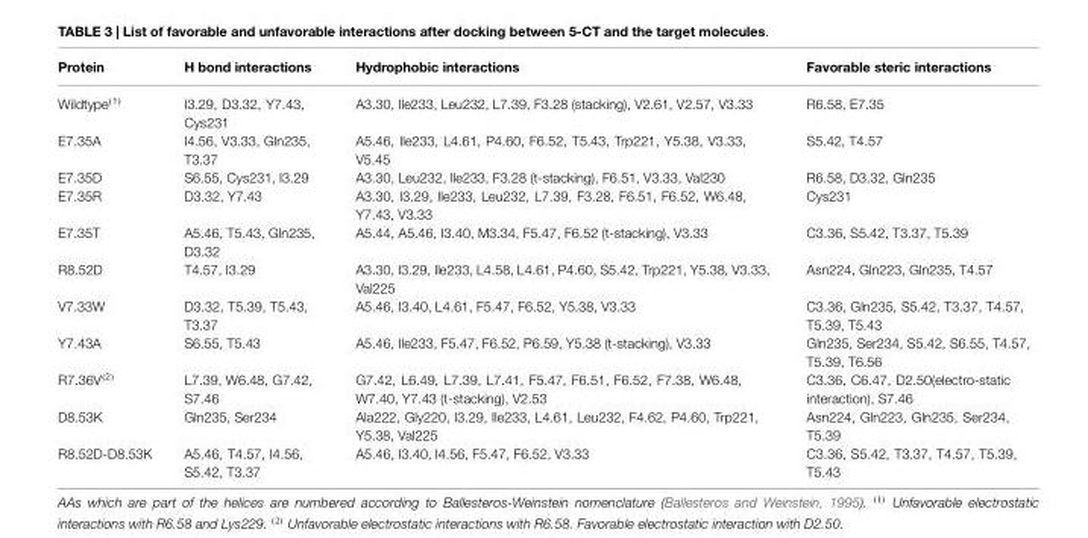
<table><thead><tr><td>Protein</td><td>H bond interactions</td><td>Hydrophobic interactions</td><td>Favorable steric interactions</td></tr></thead><tbody><tr><td>Wildtype<sup>(1)</sup></td><td>I3.29, D3.32, Y7.43, Cys231</td><td>A3.30, Ile233, Leu232, L7.39, F3.28 (stacking), V2.61, V2.57, V3.33</td><td>R6.58, E7.35</td></tr><tr><td>E7.35A</td><td>I4.56, V3.33, Gln235, T3.37</td><td>A5.46, Ile233, L4.61, P4.60, F6.52, T5.43, Trp221, Y5.38, V3.33, V5.45</td><td>S5.42, T4.57</td></tr><tr><td>E7.35D</td><td>S6.55, Cys231, I3.29</td><td>A3.30, Leu232, Ile233, F3.28 (t-stacking), F6.51, V3.33, Val230</td><td>R6.58, D3.32, Gln235</td></tr><tr><td>E7.35R</td><td>D3.32, Y7.43</td><td>A3.30, I3.29, Ile233, Leu232, L7.39, F3.28, F6.51, F6.52, W6.48, Y7.43, V3.33</td><td>Cys231</td></tr><tr><td>E7.35T</td><td>A5.46, T5.43, Gln235, D3.32</td><td>A5.44, A5.46, I3.40, M3.34, F5.47, F6.52 (t-stacking), V3.33</td><td>C3.36, S5.42, T3.37, T5.39</td></tr><tr><td>R8.52D</td><td>T4.57, I3.29</td><td>A3.30, I3.29, Ile233, L4.58, L4.61, P4.60, S5.42, Trp221, Y5.38, V3.33, Val225</td><td>Asn224, Gln223, Gln235, T4.57</td></tr><tr><td>V7.33W</td><td>D3.32, T5.39, T5.43, T3.37</td><td>A5.46, I3.40, L4.61, F5.47, F6.52, Y5.38, V3.33</td><td>C3.36, Gln235, S5.42, T3.37, T4.57, T5.39, T5.43</td></tr><tr><td>Y7.43A</td><td>S6.55, T5.43</td><td>A5.46, Ile233, F5.47, F6.52, P6.59, Y5.38 (t-stacking), V3.33</td><td>Gln235, Ser234, S5.42, S6.55, T4.57, T5.39, T6.56</td></tr><tr><td>R7.36V<sup>(2)</sup></td><td>L7.39, W6.48, G7.42, S7.46</td><td>G7.42, L6.49, L7.39, L7.41, F5.47, F6.51, F6.52, F7.38, W6.48, W7.40, Y7.43 (t-stacking), V2.53</td><td>C3.36, C6.47, D2.50(electro-static interaction), S7.46</td></tr><tr><td>D8.53K</td><td>Gln235, Ser234</td><td>Ala222, Gly220, I3.29, Ile233, L4.61, Leu232, F4.62, P4.60, Trp221, Y5.38, Val225</td><td>Asn224, Gln223, Gln235, Ser234, T5.39</td></tr><tr><td>R8.52D-D8.53K</td><td>A5.46, T4.57, I4.56, S5.42, T3.37</td><td>A5.46, I3.40, I4.56, F5.47, F6.52, V3.33</td><td>C3.36, S5.42, T3.37, T4.57, T5.39, T5.43</td></tr></tbody></table>